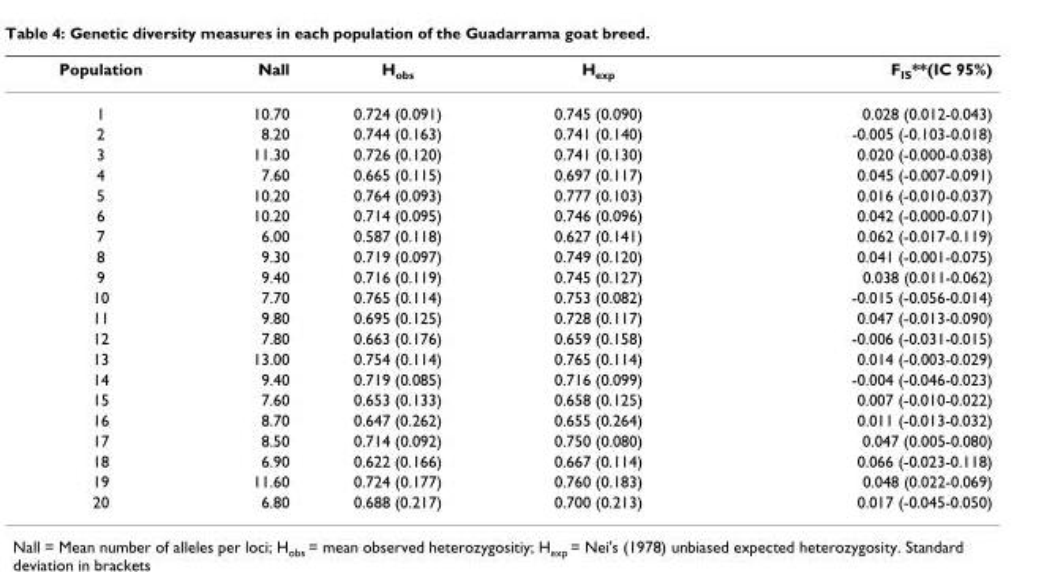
<table><thead><tr><td>Population</td><td>Nall</td><td>H<sub>obs</sub></td><td>H<sub>exp</sub></td><td>F<sub>IS</sub>**(IC 95%)</td></tr></thead><tbody><tr><td>1</td><td>10.70</td><td>0.724 (0.091)</td><td>0.745 (0.090)</td><td>0.028 (0.012-0.043)</td></tr><tr><td>2</td><td>8.20</td><td>0.744 (0.163)</td><td>0.741 (0.140)</td><td>-0.005 (-0.103-0.018)</td></tr><tr><td>3</td><td>11.30</td><td>0.726 (0.120)</td><td>0.741 (0.130)</td><td>0.020 (-0.000-0.038)</td></tr><tr><td>4</td><td>7.60</td><td>0.665 (0.115)</td><td>0.697 (0.117)</td><td>0.045 (-0.007-0.091)</td></tr><tr><td>5</td><td>10.20</td><td>0.764 (0.093)</td><td>0.777 (0.103)</td><td>0.016 (-0.010-0.037)</td></tr><tr><td>6</td><td>10.20</td><td>0.714 (0.095)</td><td>0.746 (0.096)</td><td>0.042 (-0.000-0.071)</td></tr><tr><td>7</td><td>6.00</td><td>0.587 (0.118)</td><td>0.627 (0.141)</td><td>0.062 (-0.017-0.119)</td></tr><tr><td>8</td><td>9.30</td><td>0.719 (0.097)</td><td>0.749 (0.120)</td><td>0.041 (-0.001-0.075)</td></tr><tr><td>9</td><td>9.40</td><td>0.716 (0.119)</td><td>0.745 (0.127)</td><td>0.038 (0.011-0.062)</td></tr><tr><td>10</td><td>7.70</td><td>0.765 (0.114)</td><td>0.753 (0.082)</td><td>-0.015 (-0.056-0.014)</td></tr><tr><td>11</td><td>9.80</td><td>0.695 (0.125)</td><td>0.728 (0.117)</td><td>0.047 (-0.013-0.090)</td></tr><tr><td>12</td><td>7.80</td><td>0.663 (0.176)</td><td>0.659 (0.158)</td><td>-0.006 (-0.031-0.015)</td></tr><tr><td>13</td><td>13.00</td><td>0.754 (0.114)</td><td>0.765 (0.114)</td><td>0.014 (-0.003-0.029)</td></tr><tr><td>14</td><td>9.40</td><td>0.719 (0.085)</td><td>0.716 (0.099)</td><td>-0.004 (-0.046-0.023)</td></tr><tr><td>15</td><td>7.60</td><td>0.653 (0.133)</td><td>0.658 (0.125)</td><td>0.007 (-0.010-0.022)</td></tr><tr><td>16</td><td>8.70</td><td>0.647 (0.262)</td><td>0.655 (0.264)</td><td>0.011 (-0.013-0.032)</td></tr><tr><td>17</td><td>8.50</td><td>0.714 (0.092)</td><td>0.750 (0.080)</td><td>0.047 (0.005-0.080)</td></tr><tr><td>18</td><td>6.90</td><td>0.622 (0.166)</td><td>0.667 (0.114)</td><td>0.066 (-0.023-0.118)</td></tr><tr><td>19</td><td>11.60</td><td>0.724 (0.177)</td><td>0.760 (0.183)</td><td>0.048 (0.022-0.069)</td></tr><tr><td>20</td><td>6.80</td><td>0.688 (0.217)</td><td>0.700 (0.213)</td><td>0.017 (-0.045-0.050)</td></tr></tbody></table>